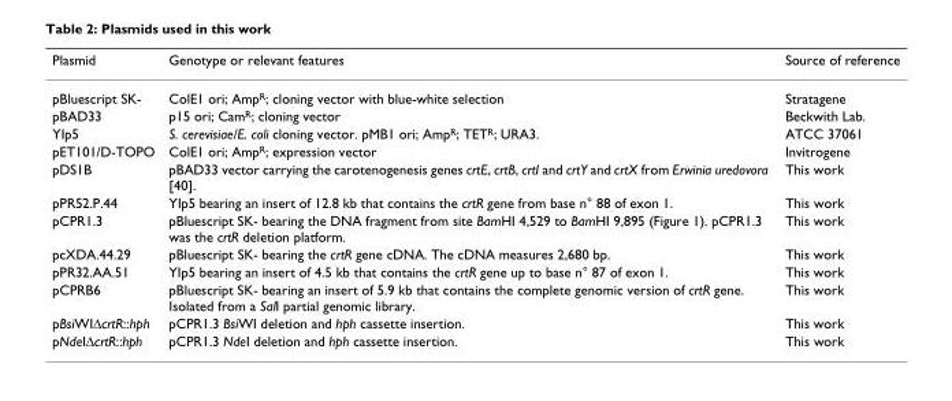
<table><thead><tr><td>Plasmid</td><td>Genotype or relevant features</td><td>Source of reference</td></tr></thead><tbody><tr><td>pBluescript SK-</td><td>ColE1 ori; Amp<sup>R</sup>; cloning vector with blue-white selection</td><td>Stratagene</td></tr><tr><td>pBAD33</td><td>p15 ori; Cam<sup>R</sup>; cloning vector</td><td>Beckwith Lab.</td></tr><tr><td>YIp5</td><td>S. cerevisiae/E. coli cloning vector. pMB1 ori; Amp<sup>R</sup>; TET<sup>R</sup>; URA3.</td><td>ATCC 37061</td></tr><tr><td>pET101/D-TOPO</td><td>ColE1 ori; Amp<sup>R</sup>; expression vector</td><td>Invitrogene</td></tr><tr><td>pDS1B</td><td>pBAD33 vector carrying the carotenogenesis genes crtE, crtB, crtI and crtY and crtX from Erwinia uredovora [40].</td><td>This work</td></tr><tr><td>pPR52.P.44</td><td>YIp5 bearing an insert of 12.8 kb that contains the crtR gene from base n° 88 of exon 1.</td><td>This work</td></tr><tr><td>pCPR1.3</td><td>pBluescript SK- bearing the DNA fragment from site BamHI 4,529 to BamHI 9,895 (Figure 1). pCPR1.3 was the crtR deletion platform.</td><td>This work</td></tr><tr><td>pcXDA.44.29</td><td>pBluescript SK- bearing the crtR gene cDNA. The cDNA measures 2,680 bp.</td><td>This work</td></tr><tr><td>pPR32.AA.51</td><td>YIp5 bearing an insert of 4.5 kb that contains the crtR gene up to base n° 87 of exon 1.</td><td>This work</td></tr><tr><td>pCPRB6</td><td>pBluescript SK- bearing an insert of 5.9 kb that contains the complete genomic version of crtR gene. Isolated from a SalI partial genomic library.</td><td>This work</td></tr><tr><td>pBsiWIΔcrtR::hph</td><td>pCPR1.3 BsiWI deletion and hph cassette insertion.</td><td>This work</td></tr><tr><td>pNdeIΔcrtR::hph</td><td>pCPR1.3 NdeI deletion and hph cassette insertion.</td><td>This work</td></tr></tbody></table>